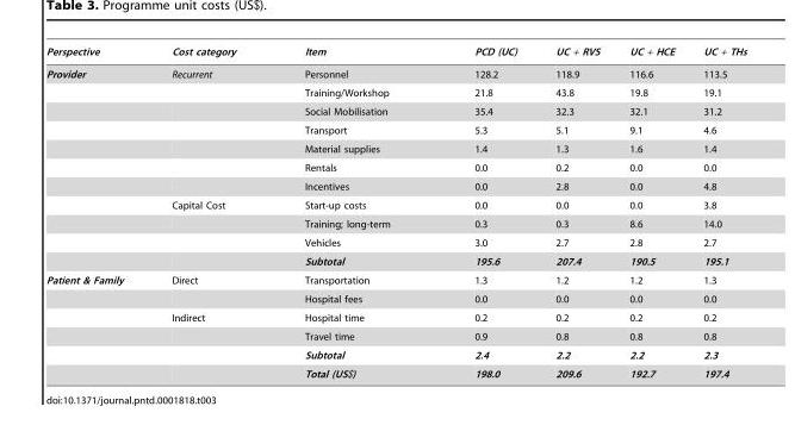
<table><thead><tr><td>Perspective</td><td>Cost category</td><td>Item</td><td>PCD (UC)</td><td>UC + RVS</td><td>UC + HCE</td><td>UC + THs</td></tr></thead><tbody><tr><td rowspan="11">Provider</td><td>Recurrent</td><td>Personnel</td><td>128.2</td><td>118.9</td><td>116.6</td><td>113.5</td></tr><tr><td></td><td>Training/Workshop</td><td>21.8</td><td>43.8</td><td>19.8</td><td>19.1</td></tr><tr><td></td><td>Social Mobilisation</td><td>35.4</td><td>32.3</td><td>32.1</td><td>31.2</td></tr><tr><td></td><td>Transport</td><td>5.3</td><td>5.1</td><td>9.1</td><td>4.6</td></tr><tr><td></td><td>Material supplies</td><td>1.4</td><td>1.3</td><td>1.6</td><td>1.4</td></tr><tr><td></td><td>Rentals</td><td>0.0</td><td>0.2</td><td>0.0</td><td>0.0</td></tr><tr><td></td><td>Incentives</td><td>0.0</td><td>2.8</td><td>0.0</td><td>4.8</td></tr><tr><td>Capital Cost</td><td>Start-up costs</td><td>0.0</td><td>0.0</td><td>0.0</td><td>3.8</td></tr><tr><td></td><td>Training; long-term</td><td>0.3</td><td>0.3</td><td>8.6</td><td>14.0</td></tr><tr><td></td><td>Vehicles</td><td>3.0</td><td>2.7</td><td>2.8</td><td>2.7</td></tr><tr><td></td><td>Subtotal</td><td>195.6</td><td>207.4</td><td>190.5</td><td>195.1</td></tr><tr><td rowspan="6">Patient &amp; Family</td><td>Direct</td><td>Transportation</td><td>1.3</td><td>1.2</td><td>1.2</td><td>1.3</td></tr><tr><td></td><td>Hospital fees</td><td>0.0</td><td>0.0</td><td>0.0</td><td>0.0</td></tr><tr><td>Indirect</td><td>Hospital time</td><td>0.2</td><td>0.2</td><td>0.2</td><td>0.2</td></tr><tr><td></td><td>Travel time</td><td>0.9</td><td>0.8</td><td>0.8</td><td>0.8</td></tr><tr><td></td><td>Subtotal</td><td>2.4</td><td>2.2</td><td>2.2</td><td>2.3</td></tr><tr><td></td><td>Total (US$)</td><td>198.0</td><td>209.6</td><td>192.7</td><td>197.4</td></tr></tbody></table>